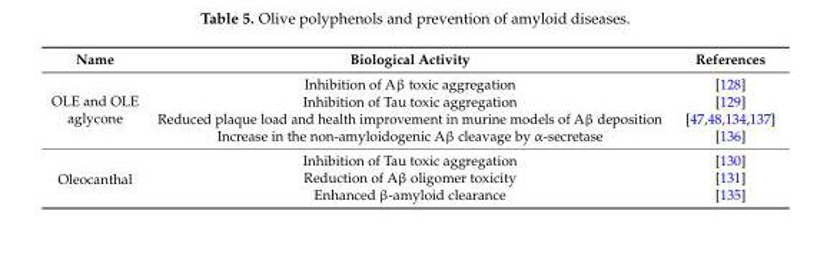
<table><thead><tr><td>Name</td><td>Biological Activity</td><td>References</td></tr></thead><tbody><tr><td rowspan="4">OLE and OLE aglycone</td><td>Inhibition of Aβ toxic aggregation</td><td>[128]</td></tr><tr><td>Inhibition of Tau toxic aggregation</td><td>[129]</td></tr><tr><td>Reduced plaque load and health improvement in murine models of Aβ deposition</td><td>[47,48,134,137]</td></tr><tr><td>Increase in the non-amyloidogenic Aβ cleavage by α-secretase</td><td>[136]</td></tr><tr><td rowspan="3">Oleocanthal</td><td>Inhibition of Tau toxic aggregation</td><td>[130]</td></tr><tr><td>Reduction of Aβ oligomer toxicity</td><td>[131]</td></tr><tr><td>Enhanced β-amyloid clearance</td><td>[135]</td></tr></tbody></table>